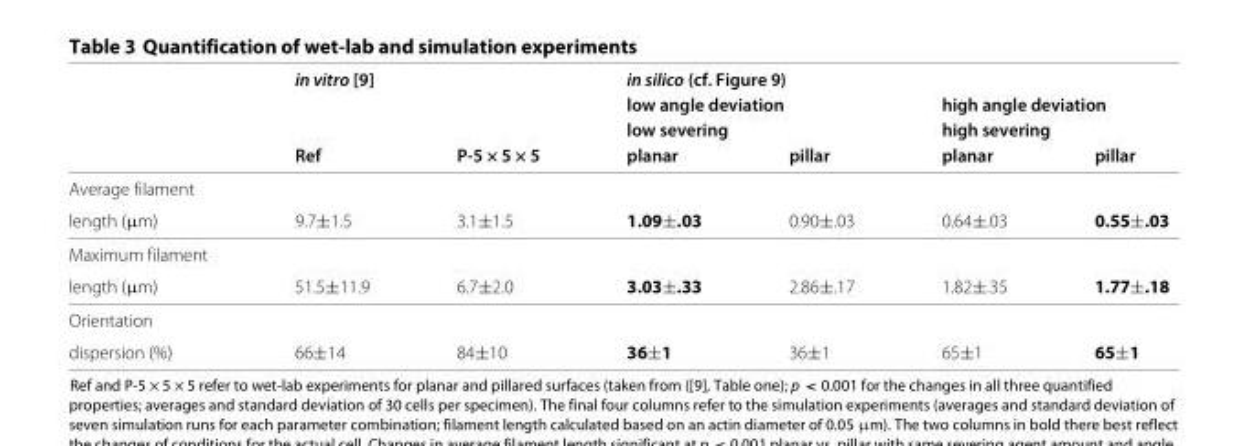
<table><thead><tr><td rowspan="4"></td><td colspan="2">in vitro [9]</td><td colspan="4">in silico (cf. Figure 9)</td></tr><tr><td rowspan="3">Ref</td><td rowspan="3">P-5 × 5 × 5</td><td rowspan="2" colspan="2">low angle deviation low severing</td><td rowspan="2" colspan="2">high angle deviation high severing</td></tr><tr></tr><tr><td>planar</td><td>pillar</td><td>planar</td><td>pillar</td></tr></thead><tbody><tr><td colspan="7">Average filament</td></tr><tr><td>length (μm)</td><td>9.7±1.5</td><td>3.1±1.5</td><td>1.09±.03</td><td>0.90±.03</td><td>0.64±.03</td><td>0.55±.03</td></tr><tr><td colspan="7">Maximum filament</td></tr><tr><td>length (μm)</td><td>51.5±11.9</td><td>6.7±2.0</td><td>3.03±.33</td><td>2.86±.17</td><td>1.82±.35</td><td>1.77±.18</td></tr><tr><td colspan="7">Orientation</td></tr><tr><td>dispersion (%)</td><td>66±14</td><td>84±10</td><td>36±1</td><td>36±1</td><td>65±1</td><td>65±1</td></tr></tbody></table>